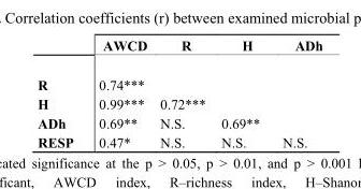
<table><thead><tr><td></td><td>AWCD</td><td>R</td><td>H</td><td>ADh</td></tr></thead><tbody><tr><td>R</td><td>0.74***</td><td></td><td></td><td></td></tr><tr><td>H</td><td>0.99***</td><td>0.72***</td><td></td><td></td></tr><tr><td>ADh</td><td>0.69**</td><td>N.S.</td><td>0.69**</td><td></td></tr><tr><td>RESP</td><td>0.47*</td><td>N.S.</td><td>N.S.</td><td>N.S.</td></tr></tbody></table>